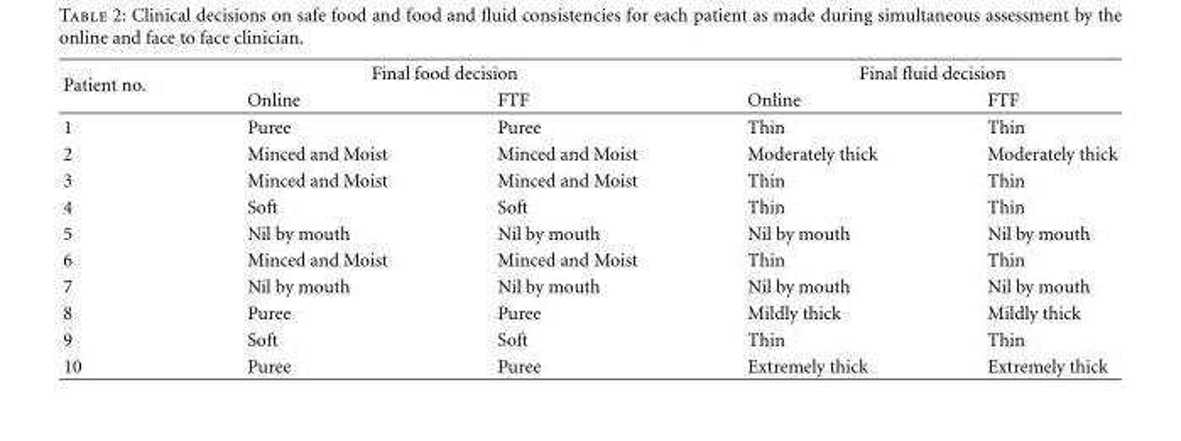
<table><thead><tr><td rowspan="2">Patient no.</td><td colspan="2">Final food decision</td><td colspan="2">Final fluid decision</td></tr><tr><td>Online</td><td>FTF</td><td>Online</td><td>FTF</td></tr></thead><tbody><tr><td>1</td><td>Puree</td><td>Puree</td><td>Thin</td><td>Thin</td></tr><tr><td>2</td><td>Minced and Moist</td><td>Minced and Moist</td><td>Moderately thick</td><td>Moderately thick</td></tr><tr><td>3</td><td>Minced and Moist</td><td>Minced and Moist</td><td>Thin</td><td>Thin</td></tr><tr><td>4</td><td>Soft</td><td>Soft</td><td>Thin</td><td>Thin</td></tr><tr><td>5</td><td>Nil by mouth</td><td>Nil by mouth</td><td>Nil by mouth</td><td>Nil by mouth</td></tr><tr><td>6</td><td>Minced and Moist</td><td>Minced and Moist</td><td>Thin</td><td>Thin</td></tr><tr><td>7</td><td>Nil by mouth</td><td>Nil by mouth</td><td>Nil by mouth</td><td>Nil by mouth</td></tr><tr><td>8</td><td>Puree</td><td>Puree</td><td>Mildly thick</td><td>Mildly thick</td></tr><tr><td>9</td><td>Soft</td><td>Soft</td><td>Thin</td><td>Thin</td></tr><tr><td>10</td><td>Puree</td><td>Puree</td><td>Extremely thick</td><td>Extremely thick</td></tr></tbody></table>